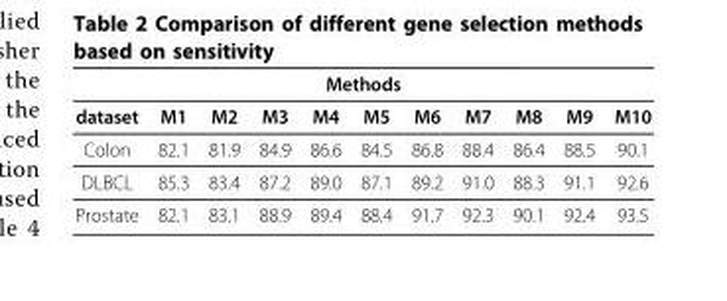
<table><thead><tr><td colspan="11">Methods</td></tr><tr><td>dataset</td><td>M1</td><td>M2</td><td>M3</td><td>M4</td><td>M5</td><td>M6</td><td>M7</td><td>M8</td><td>M9</td><td>M10</td></tr></thead><tbody><tr><td>Colon</td><td>82.1</td><td>81.9</td><td>84.9</td><td>86.6</td><td>84.5</td><td>86.8</td><td>88.4</td><td>86.4</td><td>88.5</td><td>90.1</td></tr><tr><td>DLBCL</td><td>85.3</td><td>83.4</td><td>87.2</td><td>89.0</td><td>87.1</td><td>89.2</td><td>91.0</td><td>88.3</td><td>91.1</td><td>92.6</td></tr><tr><td>Prostate</td><td>82.1</td><td>83.1</td><td>88.9</td><td>89.4</td><td>88.4</td><td>91.7</td><td>92.3</td><td>90.1</td><td>92.4</td><td>93.5</td></tr></tbody></table>